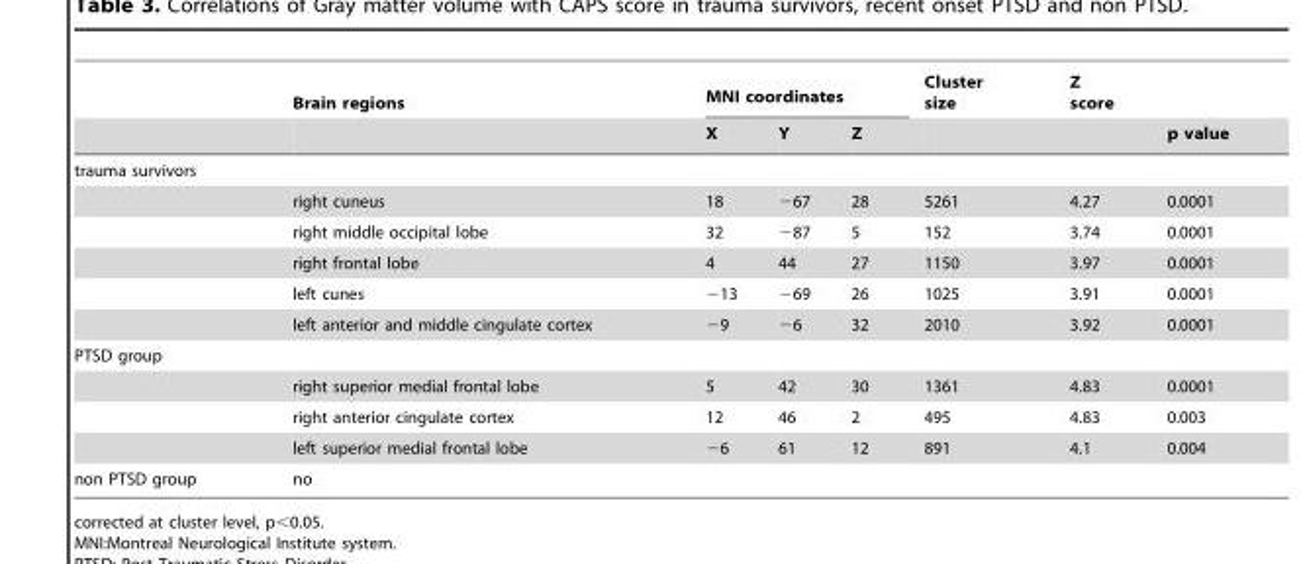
<table><thead><tr><td rowspan="2"></td><td rowspan="2">Brain regions</td><td colspan="3">MNI coordinates</td><td rowspan="2">Cluster size</td><td rowspan="2">Z score</td><td rowspan="2">p value</td></tr><tr><td>X</td><td>Y</td><td>Z</td></tr></thead><tbody><tr><td colspan="8">trauma survivors</td></tr><tr><td></td><td>right cuneus</td><td>18</td><td>−67</td><td>28</td><td>5261</td><td>4.27</td><td>0.0001</td></tr><tr><td></td><td>right middle occipital lobe</td><td>32</td><td>−87</td><td>5</td><td>152</td><td>3.74</td><td>0.0001</td></tr><tr><td></td><td>right frontal lobe</td><td>4</td><td>44</td><td>27</td><td>1150</td><td>3.97</td><td>0.0001</td></tr><tr><td></td><td>left cunes</td><td>−13</td><td>−69</td><td>26</td><td>1025</td><td>3.91</td><td>0.0001</td></tr><tr><td></td><td>left anterior and middle cingulate cortex</td><td>−9</td><td>−6</td><td>32</td><td>2010</td><td>3.92</td><td>0.0001</td></tr><tr><td colspan="8">PTSD group</td></tr><tr><td></td><td>right superior medial frontal lobe</td><td>5</td><td>42</td><td>30</td><td>1361</td><td>4.83</td><td>0.0001</td></tr><tr><td></td><td>right anterior cingulate cortex</td><td>12</td><td>46</td><td>2</td><td>495</td><td>4.83</td><td>0.003</td></tr><tr><td></td><td>left superior medial frontal lobe</td><td>−6</td><td>61</td><td>12</td><td>891</td><td>4.1</td><td>0.004</td></tr><tr><td>non PTSD group</td><td>no</td><td></td><td></td><td></td><td></td><td></td><td></td></tr></tbody></table>